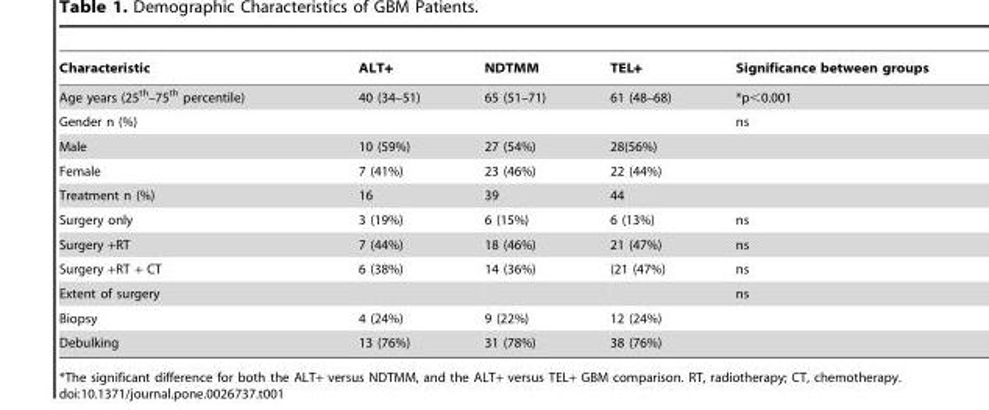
<table><thead><tr><td>Characteristic</td><td>ALT+</td><td>NDTMM</td><td>TEL+</td><td>Significance between groups</td></tr></thead><tbody><tr><td>Age years (25<sup>th</sup>–75<sup>th</sup> percentile)</td><td>40 (34–51)</td><td>65 (51–71)</td><td>61 (48–68)</td><td>*p&lt;0.001</td></tr><tr><td>Gender n (%)</td><td></td><td></td><td></td><td>ns</td></tr><tr><td>Male</td><td>10 (59%)</td><td>27 (54%)</td><td>28(56%)</td><td></td></tr><tr><td>Female</td><td>7 (41%)</td><td>23 (46%)</td><td>22 (44%)</td><td></td></tr><tr><td>Treatment n (%)</td><td>16</td><td>39</td><td>44</td><td></td></tr><tr><td>Surgery only</td><td>3 (19%)</td><td>6 (15%)</td><td>6 (13%)</td><td>ns</td></tr><tr><td>Surgery +RT</td><td>7 (44%)</td><td>18 (46%)</td><td>21 (47%)</td><td>ns</td></tr><tr><td>Surgery +RT + CT</td><td>6 (38%)</td><td>14 (36%)</td><td>(21 (47%)</td><td>ns</td></tr><tr><td>Extent of surgery</td><td></td><td></td><td></td><td>ns</td></tr><tr><td>Biopsy</td><td>4 (24%)</td><td>9 (22%)</td><td>12 (24%)</td><td></td></tr><tr><td>Debulking</td><td>13 (76%)</td><td>31 (78%)</td><td>38 (76%)</td><td></td></tr></tbody></table>